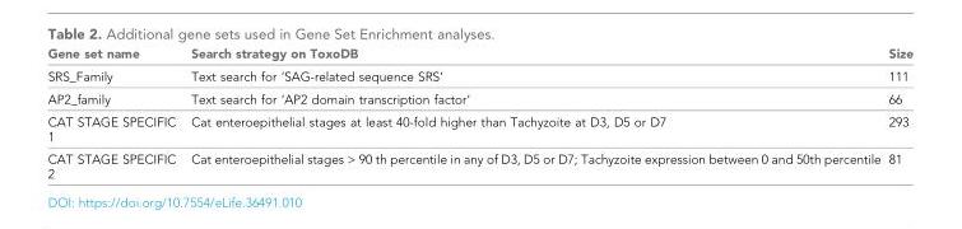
<table><thead><tr><td>Gene set name</td><td>Search strategy on ToxoDB</td><td>Size</td></tr></thead><tbody><tr><td>SRS_Family</td><td>Text search for ‘SAG-related sequence SRS’</td><td>111</td></tr><tr><td>AP2_family</td><td>Text search for ‘AP2 domain transcription factor’</td><td>66</td></tr><tr><td>CAT STAGE SPECIFIC 1</td><td>Cat enteroepithelial stages at least 40-fold higher than Tachyzoite at D3, D5 or D7</td><td>293</td></tr><tr><td>CAT STAGE SPECIFIC 2</td><td>Cat enteroepithelial stages &gt; 90 th percentile in any of D3, D5 or D7; Tachyzoite expression between 0 and 50th percentile</td><td>81</td></tr></tbody></table>